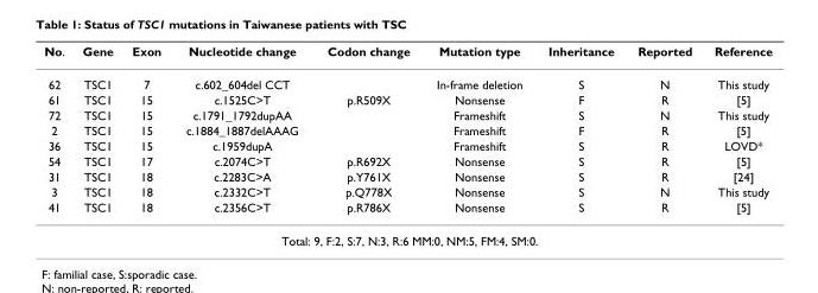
<table><thead><tr><td>No.</td><td>Gene</td><td>Exon</td><td>Nucleotide change</td><td>Codon change</td><td>Mutation type</td><td>Inheritance</td><td>Reported</td><td>Reference</td></tr></thead><tbody><tr><td>62</td><td>TSC1</td><td>7</td><td>c.602_604del CCT</td><td></td><td>In-frame deletion</td><td>S</td><td>N</td><td>This study</td></tr><tr><td>61</td><td>TSC1</td><td>15</td><td>c.1525C&gt;T</td><td>p.R509X</td><td>Nonsense</td><td>F</td><td>R</td><td>[5]</td></tr><tr><td>72</td><td>TSC1</td><td>15</td><td>c.1791_1792dupAA</td><td></td><td>Frameshift</td><td>S</td><td>N</td><td>This study</td></tr><tr><td>2</td><td>TSC1</td><td>15</td><td>c.1884_1887delAAAG</td><td></td><td>Frameshift</td><td>F</td><td>R</td><td>[5]</td></tr><tr><td>36</td><td>TSC1</td><td>15</td><td>c.1959dupA</td><td></td><td>Frameshift</td><td>S</td><td>R</td><td>LOVD*</td></tr><tr><td>54</td><td>TSC1</td><td>17</td><td>c.2074C&gt;T</td><td>p.R692X</td><td>Nonsense</td><td>S</td><td>R</td><td>[5]</td></tr><tr><td>31</td><td>TSC1</td><td>18</td><td>c.2283C&gt;A</td><td>p.Y761X</td><td>Nonsense</td><td>S</td><td>R</td><td>[24]</td></tr><tr><td>3</td><td>TSC1</td><td>18</td><td>c.2332C&gt;T</td><td>p.Q778X</td><td>Nonsense</td><td>S</td><td>N</td><td>This study</td></tr><tr><td>41</td><td>TSC1</td><td>18</td><td>c.2356C&gt;T</td><td>p.R786X</td><td>Nonsense</td><td>S</td><td>R</td><td>[5]</td></tr><tr><td colspan="9">Total: 9, F:2, S:7, N:3, R:6 MM:0, NM:5, FM:4, SM:0.</td></tr></tbody></table>